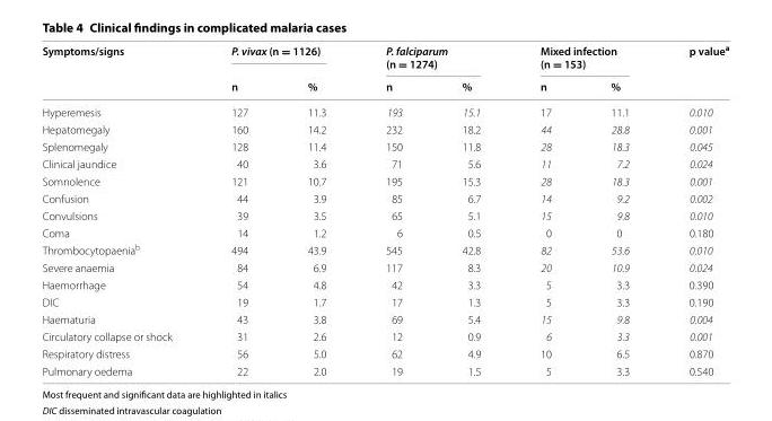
<table><thead><tr><td rowspan="2">Symptoms/signs</td><td colspan="2">P. vivax (n = 1126)</td><td colspan="2">P. falciparum (n = 1274)</td><td colspan="2">Mixed infection (n = 153)</td><td rowspan="2">p value<sup>a</sup></td></tr><tr><td>n</td><td>%</td><td>n</td><td>%</td><td>n</td><td>%</td></tr></thead><tbody><tr><td>Hyperemesis</td><td>127</td><td>11.3</td><td>193</td><td>15.1</td><td>17</td><td>11.1</td><td>0.010</td></tr><tr><td>Hepatomegaly</td><td>160</td><td>14.2</td><td>232</td><td>18.2</td><td>44</td><td>28.8</td><td>0.001</td></tr><tr><td>Splenomegaly</td><td>128</td><td>11.4</td><td>150</td><td>11.8</td><td>28</td><td>18.3</td><td>0.045</td></tr><tr><td>Clinical jaundice</td><td>40</td><td>3.6</td><td>71</td><td>5.6</td><td>11</td><td>7.2</td><td>0.024</td></tr><tr><td>Somnolence</td><td>121</td><td>10.7</td><td>195</td><td>15.3</td><td>28</td><td>18.3</td><td>0.001</td></tr><tr><td>Confusion</td><td>44</td><td>3.9</td><td>85</td><td>6.7</td><td>14</td><td>9.2</td><td>0.002</td></tr><tr><td>Convulsions</td><td>39</td><td>3.5</td><td>65</td><td>5.1</td><td>15</td><td>9.8</td><td>0.010</td></tr><tr><td>Coma</td><td>14</td><td>1.2</td><td>6</td><td>0.5</td><td>0</td><td>0</td><td>0.180</td></tr><tr><td>Thrombocytopaenia<sup>b</sup></td><td>494</td><td>43.9</td><td>545</td><td>42.8</td><td>82</td><td>53.6</td><td>0.010</td></tr><tr><td>Severe anaemia</td><td>84</td><td>6.9</td><td>117</td><td>8.3</td><td>20</td><td>10.9</td><td>0.024</td></tr><tr><td>Haemorrhage</td><td>54</td><td>4.8</td><td>42</td><td>3.3</td><td>5</td><td>3.3</td><td>0.390</td></tr><tr><td>DIC</td><td>19</td><td>1.7</td><td>17</td><td>1.3</td><td>5</td><td>3.3</td><td>0.190</td></tr><tr><td>Haematuria</td><td>43</td><td>3.8</td><td>69</td><td>5.4</td><td>15</td><td>9.8</td><td>0.004</td></tr><tr><td>Circulatory collapse or shock</td><td>31</td><td>2.6</td><td>12</td><td>0.9</td><td>6</td><td>3.3</td><td>0.001</td></tr><tr><td>Respiratory distress</td><td>56</td><td>5.0</td><td>62</td><td>4.9</td><td>10</td><td>6.5</td><td>0.870</td></tr><tr><td>Pulmonary oedema</td><td>22</td><td>2.0</td><td>19</td><td>1.5</td><td>5</td><td>3.3</td><td>0.540</td></tr></tbody></table>